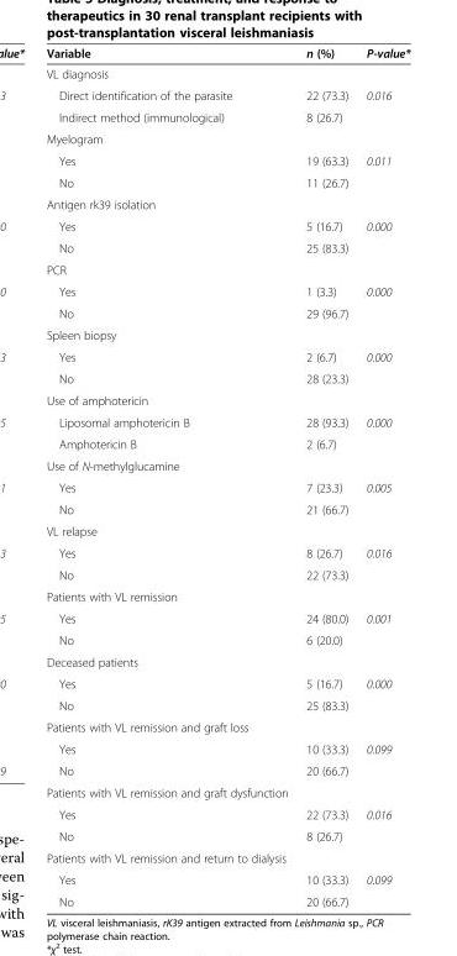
<table><thead><tr><td>Variable</td><td>n (%)</td><td>P-value*</td></tr></thead><tbody><tr><td colspan="3">VL diagnosis</td></tr><tr><td>Direct identification of the parasite</td><td>22 (73.3)</td><td rowspan="2">0.016</td></tr><tr><td>Indirect method (immunological)</td><td>8 (26.7)</td></tr><tr><td colspan="3">Myelogram</td></tr><tr><td>Yes</td><td>19 (63.3)</td><td>0.011</td></tr><tr><td>No</td><td>11 (26.7)</td><td></td></tr><tr><td colspan="3">Antigen rk39 isolation</td></tr><tr><td>Yes</td><td>5 (16.7)</td><td>0.000</td></tr><tr><td>No</td><td>25 (83.3)</td><td></td></tr><tr><td colspan="3">PCR</td></tr><tr><td>Yes</td><td>1 (3.3)</td><td>0.000</td></tr><tr><td>No</td><td>29 (96.7)</td><td></td></tr><tr><td colspan="3">Spleen biopsy</td></tr><tr><td>Yes</td><td>2 (6.7)</td><td>0.000</td></tr><tr><td>No</td><td>28 (23.3)</td><td></td></tr><tr><td colspan="3">Use of amphotericin</td></tr><tr><td>Liposomal amphotericin B</td><td>28 (93.3)</td><td rowspan="2">0.000</td></tr><tr><td>Amphotericin B</td><td>2 (6.7)</td></tr><tr><td colspan="3">Use of N-methylglucamine</td></tr><tr><td>Yes</td><td>7 (23.3)</td><td>0.005</td></tr><tr><td>No</td><td>21 (66.7)</td><td></td></tr><tr><td colspan="3">VL relapse</td></tr><tr><td>Yes</td><td>8 (26.7)</td><td>0.016</td></tr><tr><td>No</td><td>22 (73.3)</td><td></td></tr><tr><td colspan="3">Patients with VL remission</td></tr><tr><td>Yes</td><td>24 (80.0)</td><td>0.001</td></tr><tr><td>No</td><td>6 (20.0)</td><td></td></tr><tr><td colspan="3">Deceased patients</td></tr><tr><td>Yes</td><td>5 (16.7)</td><td>0.000</td></tr><tr><td>No</td><td>25 (83.3)</td><td></td></tr><tr><td colspan="3">Patients with VL remission and graft loss</td></tr><tr><td>Yes</td><td>10 (33.3)</td><td>0.099</td></tr><tr><td>No</td><td>20 (66.7)</td><td></td></tr><tr><td colspan="3">Patients with VL remission and graft dysfunction</td></tr><tr><td>Yes</td><td>22 (73.3)</td><td>0.016</td></tr><tr><td>No</td><td>8 (26.7)</td><td></td></tr><tr><td colspan="3">Patients with VL remission and return to dialysis</td></tr><tr><td>Yes</td><td>10 (33.3)</td><td>0.099</td></tr><tr><td>No</td><td>20 (66.7)</td><td></td></tr></tbody></table>